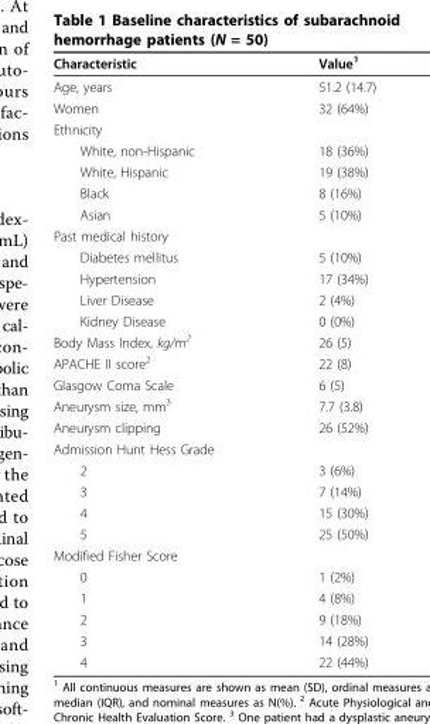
<table><thead><tr><td>Characteristic</td><td>Value<sup>1</sup></td></tr></thead><tbody><tr><td>Age, years</td><td>51.2 (14.7)</td></tr><tr><td>Women</td><td>32 (64%)</td></tr><tr><td colspan="2">Ethnicity</td></tr><tr><td>White, non-Hispanic</td><td>18 (36%)</td></tr><tr><td>White, Hispanic</td><td>19 (38%)</td></tr><tr><td>Black</td><td>8 (16%)</td></tr><tr><td>Asian</td><td>5 (10%)</td></tr><tr><td colspan="2">Past medical history</td></tr><tr><td>Diabetes mellitus</td><td>5 (10%)</td></tr><tr><td>Hypertension</td><td>17 (34%)</td></tr><tr><td>Liver Disease</td><td>2 (4%)</td></tr><tr><td>Kidney Disease</td><td>0 (0%)</td></tr><tr><td>Body Mass Index, kg/m<sup>2</sup></td><td>26 (5)</td></tr><tr><td>APACHE II score<sup>2</sup></td><td>22 (8)</td></tr><tr><td>Glasgow Coma Scale</td><td>6 (5)</td></tr><tr><td>Aneurysm size, mm<sup>3</sup></td><td>7.7 (3.8)</td></tr><tr><td>Aneurysm clipping</td><td>26 (52%)</td></tr><tr><td colspan="2">Admission Hunt Hess Grade</td></tr><tr><td>2</td><td>3 (6%)</td></tr><tr><td>3</td><td>7 (14%)</td></tr><tr><td>4</td><td>15 (30%)</td></tr><tr><td>5</td><td>25 (50%)</td></tr><tr><td colspan="2">Modified Fisher Score</td></tr><tr><td>0</td><td>1 (2%)</td></tr><tr><td>1</td><td>4 (8%)</td></tr><tr><td>2</td><td>9 (18%)</td></tr><tr><td>3</td><td>14 (28%)</td></tr><tr><td>4</td><td>22 (44%)</td></tr></tbody></table>